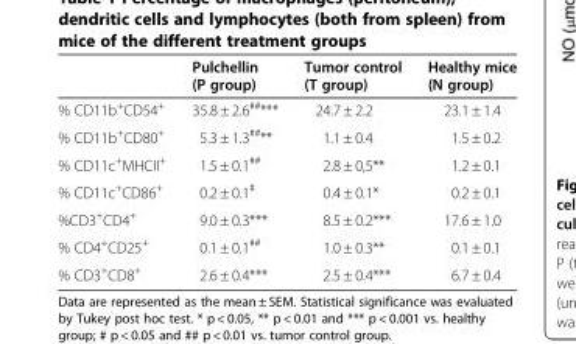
<table><thead><tr><td></td><td>Pulchellin (P group)</td><td>Tumor control (T group)</td><td>Healthy mice (N group)</td></tr></thead><tbody><tr><td>% CD11b<sup>+</sup>CD54<sup>+</sup></td><td>35.8 ± 2.6<sup>##</sup>***</td><td>24.7 ± 2.2</td><td>23.1 ± 1.4</td></tr><tr><td>% CD11b<sup>+</sup>CD80<sup>+</sup></td><td>5.3 ± 1.3<sup>##</sup>**</td><td>1.1 ± 0.4</td><td>1.5 ± 0.2</td></tr><tr><td>% CD11c<sup>+</sup>MHCII<sup>+</sup></td><td>1.5 ± 0.1<sup>##</sup></td><td>2.8 ± 0,5**</td><td>1.2 ± 0.1</td></tr><tr><td>% CD11c<sup>+</sup>CD86<sup>+</sup></td><td>0.2 ± 0.1<sup>#</sup></td><td>0.4 ± 0.1*</td><td>0.2 ± 0.1</td></tr><tr><td>%CD3<sup>+</sup>CD4<sup>+</sup></td><td>9.0 ± 0.3***</td><td>8.5 ± 0.2***</td><td>17.6 ± 1.0</td></tr><tr><td>% CD4<sup>+</sup>CD25<sup>+</sup></td><td>0.1 ± 0.1<sup>##</sup></td><td>1.0 ± 0.3**</td><td>0.1 ± 0.1</td></tr><tr><td>% CD3<sup>+</sup>CD8<sup>+</sup></td><td>2.6 ± 0.4***</td><td>2.5 ± 0.4***</td><td>6.7 ± 0.4</td></tr></tbody></table>